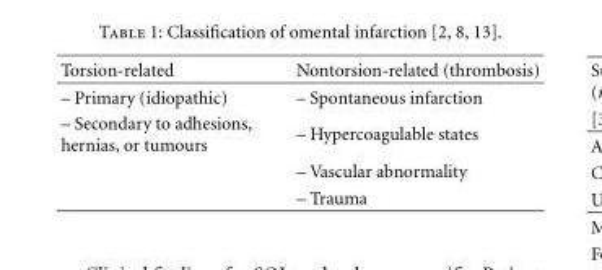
<table><thead><tr><td>Torsion-related</td><td>Nontorsion-related (thrombosis)</td></tr></thead><tbody><tr><td>– Primary (idiopathic)</td><td>– Spontaneous infarction</td></tr><tr><td rowspan="3">– Secondary to adhesions, hernias, or tumours</td><td>– Hypercoagulable states</td></tr><tr><td>– Vascular abnormality</td></tr><tr><td>– Trauma</td></tr></tbody></table>